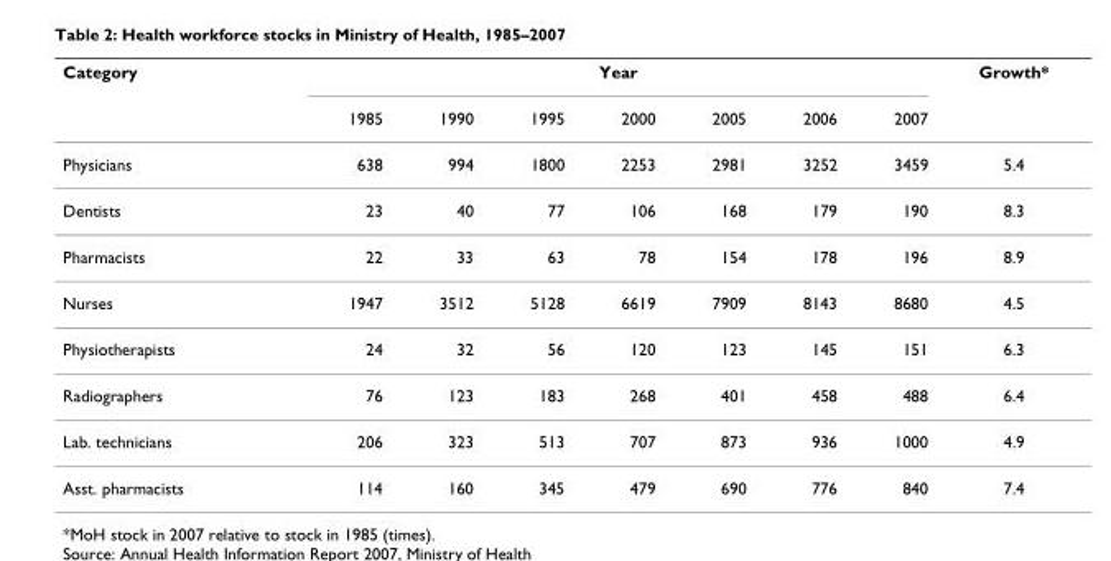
<table><thead><tr><td rowspan="2">Category</td><td colspan="7">Year</td><td rowspan="2">Growth*</td></tr><tr><td>1985</td><td>1990</td><td>1995</td><td>2000</td><td>2005</td><td>2006</td><td>2007</td></tr></thead><tbody><tr><td>Physicians</td><td>638</td><td>994</td><td>1800</td><td>2253</td><td>2981</td><td>3252</td><td>3459</td><td>5.4</td></tr><tr><td>Dentists</td><td>23</td><td>40</td><td>77</td><td>106</td><td>168</td><td>179</td><td>190</td><td>8.3</td></tr><tr><td>Pharmacists</td><td>22</td><td>33</td><td>63</td><td>78</td><td>154</td><td>178</td><td>196</td><td>8.9</td></tr><tr><td>Nurses</td><td>1947</td><td>3512</td><td>5128</td><td>6619</td><td>7909</td><td>8143</td><td>8680</td><td>4.5</td></tr><tr><td>Physiotherapists</td><td>24</td><td>32</td><td>56</td><td>120</td><td>123</td><td>145</td><td>151</td><td>6.3</td></tr><tr><td>Radiographers</td><td>76</td><td>123</td><td>183</td><td>268</td><td>401</td><td>458</td><td>488</td><td>6.4</td></tr><tr><td>Lab. technicians</td><td>206</td><td>323</td><td>513</td><td>707</td><td>873</td><td>936</td><td>1000</td><td>4.9</td></tr><tr><td>Asst. pharmacists</td><td>114</td><td>160</td><td>345</td><td>479</td><td>690</td><td>776</td><td>840</td><td>7.4</td></tr></tbody></table>